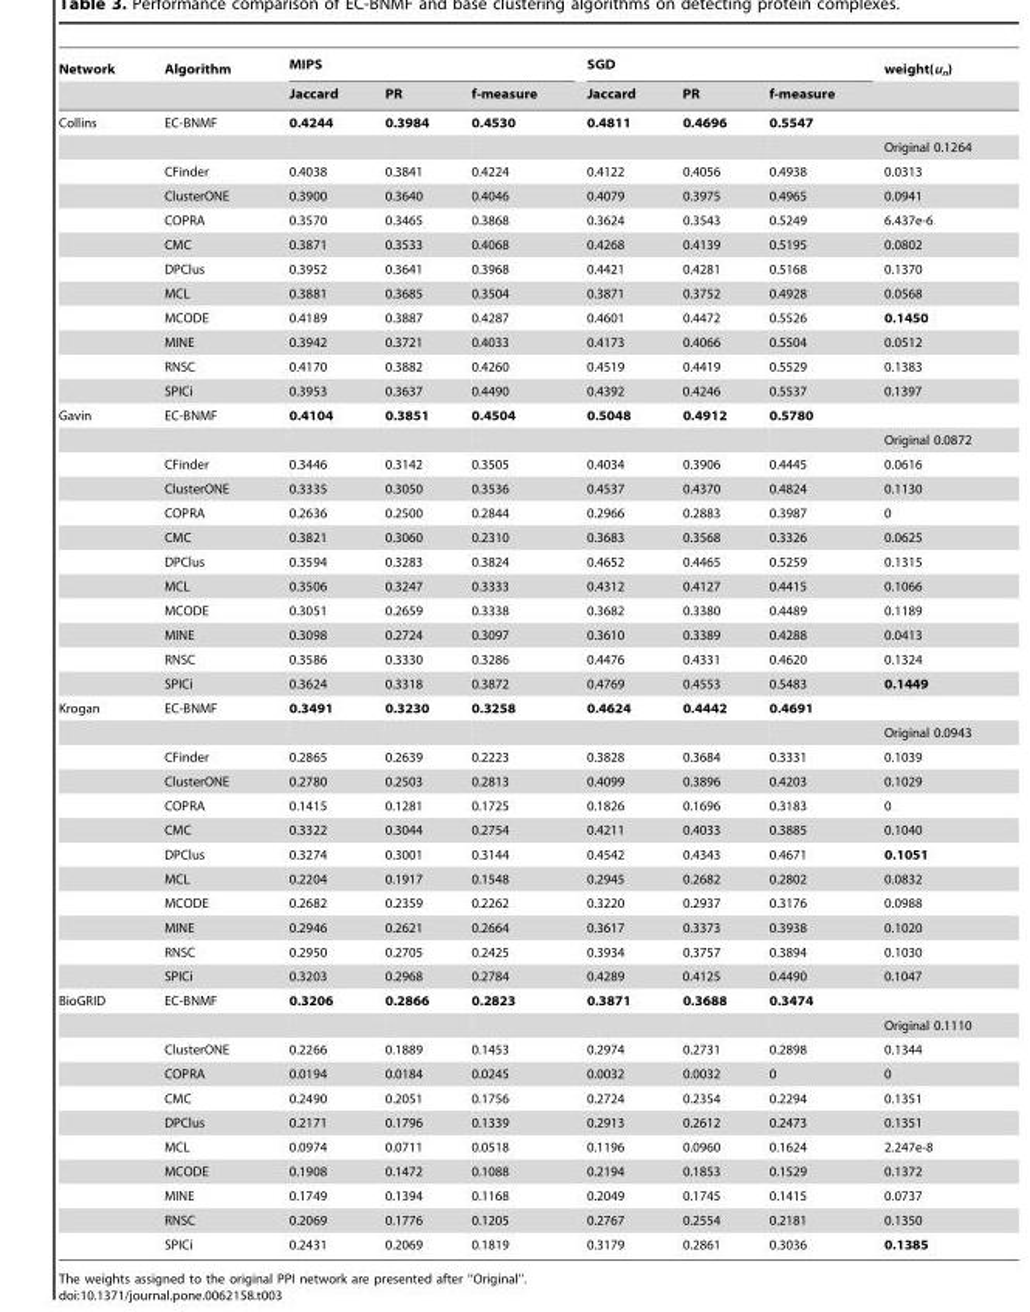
<table><thead><tr><td rowspan="2">Network</td><td rowspan="2">Algorithm</td><td colspan="3">MIPS</td><td colspan="3">SGD</td><td rowspan="2">weight(u<sub>n</sub>)</td></tr><tr><td>Jaccard</td><td>PR</td><td>f-measure</td><td>Jaccard</td><td>PR</td><td>f-measure</td></tr></thead><tbody><tr><td rowspan="12">Collins</td><td>EC-BNMF</td><td>0.4244</td><td>0.3984</td><td>0.4530</td><td>0.4811</td><td>0.4696</td><td>0.5547</td><td></td></tr><tr><td></td><td></td><td></td><td></td><td></td><td></td><td></td><td>Original 0.1264</td></tr><tr><td>CFinder</td><td>0.4038</td><td>0.3841</td><td>0.4224</td><td>0.4122</td><td>0.4056</td><td>0.4938</td><td>0.0313</td></tr><tr><td>ClusterONE</td><td>0.3900</td><td>0.3640</td><td>0.4046</td><td>0.4079</td><td>0.3975</td><td>0.4965</td><td>0.0941</td></tr><tr><td>COPRA</td><td>0.3570</td><td>0.3465</td><td>0.3868</td><td>0.3624</td><td>0.3543</td><td>0.5249</td><td>6.437e-6</td></tr><tr><td>CMC</td><td>0.3871</td><td>0.3533</td><td>0.4068</td><td>0.4268</td><td>0.4139</td><td>0.5195</td><td>0.0802</td></tr><tr><td>DPClus</td><td>0.3952</td><td>0.3641</td><td>0.3968</td><td>0.4421</td><td>0.4281</td><td>0.5168</td><td>0.1370</td></tr><tr><td>MCL</td><td>0.3881</td><td>0.3685</td><td>0.3504</td><td>0.3871</td><td>0.3752</td><td>0.4928</td><td>0.0568</td></tr><tr><td>MCODE</td><td>0.4189</td><td>0.3887</td><td>0.4287</td><td>0.4601</td><td>0.4472</td><td>0.5526</td><td>0.1450</td></tr><tr><td>MINE</td><td>0.3942</td><td>0.3721</td><td>0.4033</td><td>0.4173</td><td>0.4066</td><td>0.5504</td><td>0.0512</td></tr><tr><td>RNSC</td><td>0.4170</td><td>0.3882</td><td>0.4260</td><td>0.4519</td><td>0.4419</td><td>0.5529</td><td>0.1383</td></tr><tr><td>SPICi</td><td>0.3953</td><td>0.3637</td><td>0.4490</td><td>0.4392</td><td>0.4246</td><td>0.5537</td><td>0.1397</td></tr><tr><td rowspan="12">Gavin</td><td>EC-BNMF</td><td>0.4104</td><td>0.3851</td><td>0.4504</td><td>0.5048</td><td>0.4912</td><td>0.5780</td><td></td></tr><tr><td></td><td></td><td></td><td></td><td></td><td></td><td></td><td>Original 0.0872</td></tr><tr><td>CFinder</td><td>0.3446</td><td>0.3142</td><td>0.3505</td><td>0.4034</td><td>0.3906</td><td>0.4445</td><td>0.0616</td></tr><tr><td>ClusterONE</td><td>0.3335</td><td>0.3050</td><td>0.3536</td><td>0.4537</td><td>0.4370</td><td>0.4824</td><td>0.1130</td></tr><tr><td>COPRA</td><td>0.2636</td><td>0.2500</td><td>0.2844</td><td>0.2966</td><td>0.2883</td><td>0.3987</td><td>0</td></tr><tr><td>CMC</td><td>0.3821</td><td>0.3060</td><td>0.2310</td><td>0.3683</td><td>0.3568</td><td>0.3326</td><td>0.0625</td></tr><tr><td>DPClus</td><td>0.3594</td><td>0.3283</td><td>0.3824</td><td>0.4652</td><td>0.4465</td><td>0.5259</td><td>0.1315</td></tr><tr><td>MCL</td><td>0.3506</td><td>0.3247</td><td>0.3333</td><td>0.4312</td><td>0.4127</td><td>0.4415</td><td>0.1066</td></tr><tr><td>MCODE</td><td>0.3051</td><td>0.2659</td><td>0.3338</td><td>0.3682</td><td>0.3380</td><td>0.4489</td><td>0.1189</td></tr><tr><td>MINE</td><td>0.3098</td><td>0.2724</td><td>0.3097</td><td>0.3610</td><td>0.3389</td><td>0.4288</td><td>0.0413</td></tr><tr><td>RNSC</td><td>0.3586</td><td>0.3330</td><td>0.3286</td><td>0.4476</td><td>0.4331</td><td>0.4620</td><td>0.1324</td></tr><tr><td>SPICi</td><td>0.3624</td><td>0.3318</td><td>0.3872</td><td>0.4769</td><td>0.4553</td><td>0.5483</td><td>0.1449</td></tr><tr><td rowspan="12">Krogan</td><td>EC-BNMF</td><td>0.3491</td><td>0.3230</td><td>0.3258</td><td>0.4624</td><td>0.4442</td><td>0.4691</td><td></td></tr><tr><td></td><td></td><td></td><td></td><td></td><td></td><td></td><td>Original 0.0943</td></tr><tr><td>CFinder</td><td>0.2865</td><td>0.2639</td><td>0.2223</td><td>0.3828</td><td>0.3684</td><td>0.3331</td><td>0.1039</td></tr><tr><td>ClusterONE</td><td>0.2780</td><td>0.2503</td><td>0.2813</td><td>0.4099</td><td>0.3896</td><td>0.4203</td><td>0.1029</td></tr><tr><td>COPRA</td><td>0.1415</td><td>0.1281</td><td>0.1725</td><td>0.1826</td><td>0.1696</td><td>0.3183</td><td>0</td></tr><tr><td>CMC</td><td>0.3322</td><td>0.3044</td><td>0.2754</td><td>0.4211</td><td>0.4033</td><td>0.3885</td><td>0.1040</td></tr><tr><td>DPClus</td><td>0.3274</td><td>0.3001</td><td>0.3144</td><td>0.4542</td><td>0.4343</td><td>0.4671</td><td>0.1051</td></tr><tr><td>MCL</td><td>0.2204</td><td>0.1917</td><td>0.1548</td><td>0.2945</td><td>0.2682</td><td>0.2802</td><td>0.0832</td></tr><tr><td>MCODE</td><td>0.2682</td><td>0.2359</td><td>0.2262</td><td>0.3220</td><td>0.2937</td><td>0.3176</td><td>0.0988</td></tr><tr><td>MINE</td><td>0.2946</td><td>0.2621</td><td>0.2664</td><td>0.3617</td><td>0.3373</td><td>0.3938</td><td>0.1020</td></tr><tr><td>RNSC</td><td>0.2950</td><td>0.2705</td><td>0.2425</td><td>0.3934</td><td>0.3757</td><td>0.3894</td><td>0.1030</td></tr><tr><td>SPICi</td><td>0.3203</td><td>0.2968</td><td>0.2784</td><td>0.4289</td><td>0.4125</td><td>0.4490</td><td>0.1047</td></tr><tr><td rowspan="11">BioGRID</td><td>EC-BNMF</td><td>0.3206</td><td>0.2866</td><td>0.2823</td><td>0.3871</td><td>0.3688</td><td>0.3474</td><td></td></tr><tr><td></td><td></td><td></td><td></td><td></td><td></td><td></td><td>Original 0.1110</td></tr><tr><td>ClusterONE</td><td>0.2266</td><td>0.1889</td><td>0.1453</td><td>0.2974</td><td>0.2731</td><td>0.2898</td><td>0.1344</td></tr><tr><td>COPRA</td><td>0.0194</td><td>0.0184</td><td>0.0245</td><td>0.0032</td><td>0.0032</td><td>0</td><td>0</td></tr><tr><td>CMC</td><td>0.2490</td><td>0.2051</td><td>0.1756</td><td>0.2724</td><td>0.2354</td><td>0.2294</td><td>0.1351</td></tr><tr><td>DPClus</td><td>0.2171</td><td>0.1796</td><td>0.1339</td><td>0.2913</td><td>0.2612</td><td>0.2473</td><td>0.1351</td></tr><tr><td>MCL</td><td>0.0974</td><td>0.0711</td><td>0.0518</td><td>0.1196</td><td>0.0960</td><td>0.1624</td><td>2.247e-8</td></tr><tr><td>MCODE</td><td>0.1908</td><td>0.1472</td><td>0.1088</td><td>0.2194</td><td>0.1853</td><td>0.1529</td><td>0.1372</td></tr><tr><td>MINE</td><td>0.1749</td><td>0.1394</td><td>0.1168</td><td>0.2049</td><td>0.1745</td><td>0.1415</td><td>0.0737</td></tr><tr><td>RNSC</td><td>0.2069</td><td>0.1776</td><td>0.1205</td><td>0.2767</td><td>0.2554</td><td>0.2181</td><td>0.1350</td></tr><tr><td>SPICi</td><td>0.2431</td><td>0.2069</td><td>0.1819</td><td>0.3179</td><td>0.2861</td><td>0.3036</td><td>0.1385</td></tr></tbody></table>